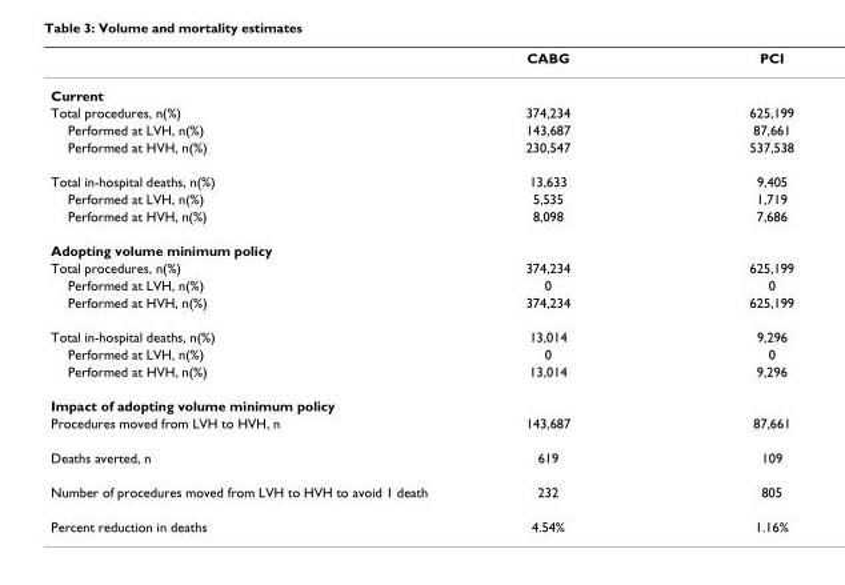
<table><thead><tr><td></td><td>CABG</td><td>PCI</td></tr></thead><tbody><tr><td colspan="3">Current</td></tr><tr><td>Total procedures, n(%)</td><td>374,234</td><td>625,199</td></tr><tr><td>Performed at LVH, n(%)</td><td>143,687</td><td>87,661</td></tr><tr><td>Performed at HVH, n(%)</td><td>230,547</td><td>537,538</td></tr><tr><td>Total in-hospital deaths, n(%)</td><td>13,633</td><td>9,405</td></tr><tr><td>Performed at LVH, n(%)</td><td>5,535</td><td>1,719</td></tr><tr><td>Performed at HVH, n(%)</td><td>8,098</td><td>7,686</td></tr><tr><td colspan="3">Adopting volume minimum policy</td></tr><tr><td>Total procedures, n(%)</td><td>374,234</td><td>625,199</td></tr><tr><td>Performed at LVH, n(%)</td><td>0</td><td>0</td></tr><tr><td>Performed at HVH, n(%)</td><td>374,234</td><td>625,199</td></tr><tr><td>Total in-hospital deaths, n(%)</td><td>13,014</td><td>9,296</td></tr><tr><td>Performed at LVH, n(%)</td><td>0</td><td>0</td></tr><tr><td>Performed at HVH, n(%)</td><td>13,014</td><td>9,296</td></tr><tr><td colspan="3">Impact of adopting volume minimum policy</td></tr><tr><td>Procedures moved from LVH to HVH, n</td><td>143,687</td><td>87,661</td></tr><tr><td>Deaths averted, n</td><td>619</td><td>109</td></tr><tr><td>Number of procedures moved from LVH to HVH to avoid 1 death</td><td>232</td><td>805</td></tr><tr><td>Percent reduction in deaths</td><td>4.54%</td><td>1.16%</td></tr></tbody></table>